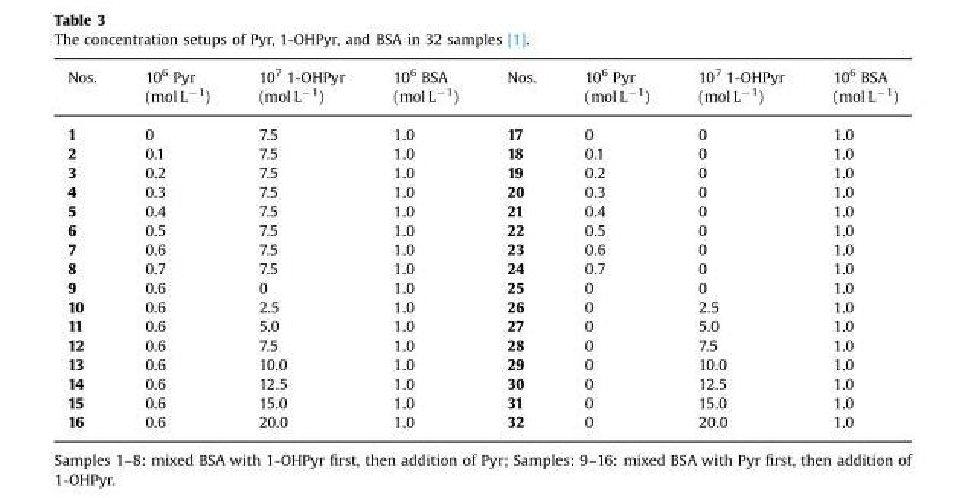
<table><thead><tr><td>Nos.</td><td>10<sup>6</sup> Pyr (mol L<sup>−1</sup>)</td><td>10<sup>7</sup> 1-OHPyr (mol L<sup>−1</sup>)</td><td>10<sup>6</sup> BSA (mol L<sup>−1</sup>)</td><td>Nos.</td><td>10<sup>6</sup> Pyr (mol L<sup>−1</sup>)</td><td>10<sup>7</sup> 1-OHPyr (mol L<sup>−1</sup>)</td><td>10<sup>6</sup> BSA (mol L<sup>−1</sup>)</td></tr></thead><tbody><tr><td>1</td><td>0</td><td>7.5</td><td>1.0</td><td>17</td><td>0</td><td>0</td><td>1.0</td></tr><tr><td>2</td><td>0.1</td><td>7.5</td><td>1.0</td><td>18</td><td>0.1</td><td>0</td><td>1.0</td></tr><tr><td>3</td><td>0.2</td><td>7.5</td><td>1.0</td><td>19</td><td>0.2</td><td>0</td><td>1.0</td></tr><tr><td>4</td><td>0.3</td><td>7.5</td><td>1.0</td><td>20</td><td>0.3</td><td>0</td><td>1.0</td></tr><tr><td>5</td><td>0.4</td><td>7.5</td><td>1.0</td><td>21</td><td>0.4</td><td>0</td><td>1.0</td></tr><tr><td>6</td><td>0.5</td><td>7.5</td><td>1.0</td><td>22</td><td>0.5</td><td>0</td><td>1.0</td></tr><tr><td>7</td><td>0.6</td><td>7.5</td><td>1.0</td><td>23</td><td>0.6</td><td>0</td><td>1.0</td></tr><tr><td>8</td><td>0.7</td><td>7.5</td><td>1.0</td><td>24</td><td>0.7</td><td>0</td><td>1.0</td></tr><tr><td>9</td><td>0.6</td><td>0</td><td>1.0</td><td>25</td><td>0</td><td>0</td><td>1.0</td></tr><tr><td>10</td><td>0.6</td><td>2.5</td><td>1.0</td><td>26</td><td>0</td><td>2.5</td><td>1.0</td></tr><tr><td>11</td><td>0.6</td><td>5.0</td><td>1.0</td><td>27</td><td>0</td><td>5.0</td><td>1.0</td></tr><tr><td>12</td><td>0.6</td><td>7.5</td><td>1.0</td><td>28</td><td>0</td><td>7.5</td><td>1.0</td></tr><tr><td>13</td><td>0.6</td><td>10.0</td><td>1.0</td><td>29</td><td>0</td><td>10.0</td><td>1.0</td></tr><tr><td>14</td><td>0.6</td><td>12.5</td><td>1.0</td><td>30</td><td>0</td><td>12.5</td><td>1.0</td></tr><tr><td>15</td><td>0.6</td><td>15.0</td><td>1.0</td><td>31</td><td>0</td><td>15.0</td><td>1.0</td></tr><tr><td>16</td><td>0.6</td><td>20.0</td><td>1.0</td><td>32</td><td>0</td><td>20.0</td><td>1.0</td></tr></tbody></table>